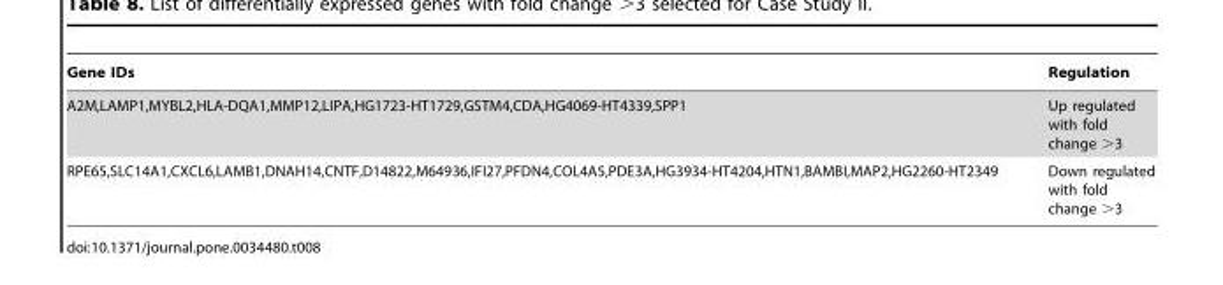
<table><thead><tr><td>Gene IDs</td><td>Regulation</td></tr></thead><tbody><tr><td>A2M,LAMP1,MYBL2,HLA-DQA1,MMP12,LIPA,HG1723-HT1729,GSTM4,CDA,HG4069-HT4339,SPP1</td><td>Up regulated with fold change &gt;3</td></tr><tr><td>RPE65,SLC14A1,CXCL6,LAMB1,DNAH14,CNTF,D14822,M64936,IFI27,PFDN4,COL4A5,PDE3A,HG3934-HT4204,HTN1,BAMBI,MAP2,HG2260-HT2349</td><td>Down regulated with fold change &gt;3</td></tr></tbody></table>